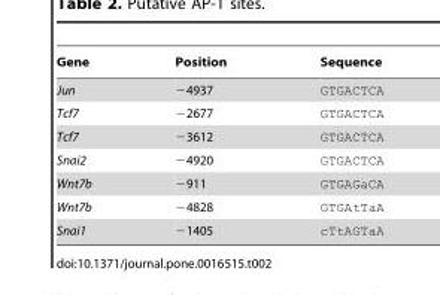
<table><thead><tr><td>Gene</td><td>Position</td><td>Sequence</td></tr></thead><tbody><tr><td>Jun</td><td>−4937</td><td>GTGACTCA</td></tr><tr><td>Tcf7</td><td>−2677</td><td>GTGACTCA</td></tr><tr><td>Tcf7</td><td>−3612</td><td>GTGACTCA</td></tr><tr><td>Snai2</td><td>−4920</td><td>GTGACTCA</td></tr><tr><td>Wnt7b</td><td>−911</td><td>GTGAGaCA</td></tr><tr><td>Wnt7b</td><td>−4828</td><td>GTGAtTaA</td></tr><tr><td>Snai1</td><td>−1405</td><td>cTtAGTaA</td></tr></tbody></table>